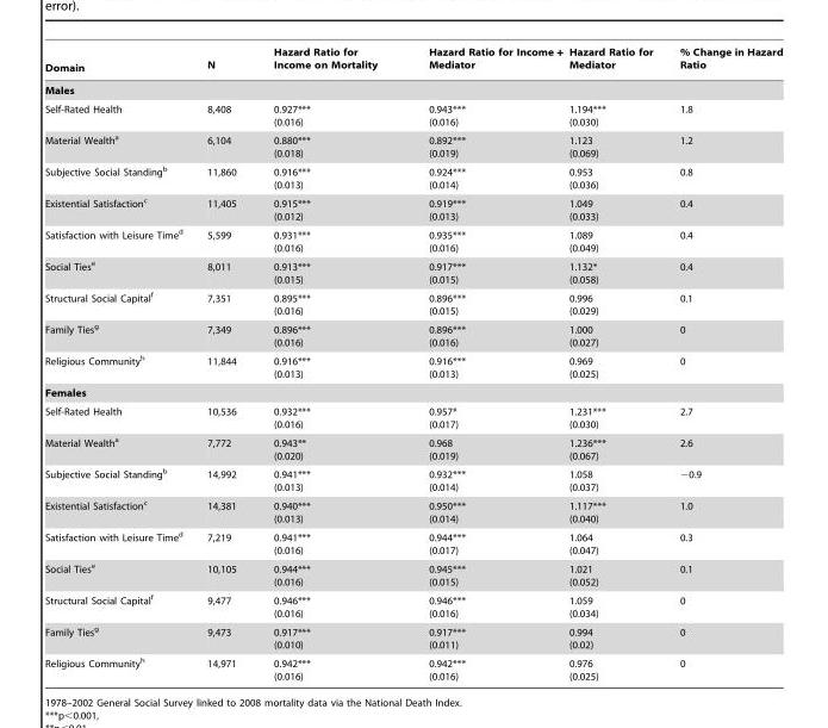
<table><thead><tr><td>Domain</td><td>N</td><td>Hazard Ratio for Income on Mortality</td><td>Hazard Ratio for Income + Mediator</td><td>Hazard Ratio for Mediator</td><td>% Change in Hazard Ratio</td></tr></thead><tbody><tr><td colspan="6">Males</td></tr><tr><td>Self-Rated Health</td><td>8,408</td><td>0.927*** (0.016)</td><td>0.943*** (0.016)</td><td>1.194*** (0.030)</td><td>1.8</td></tr><tr><td>Material Wealth<sup>a</sup></td><td>6,104</td><td>0.880*** (0.018)</td><td>0.892*** (0.019)</td><td>1.123 (0.069)</td><td>1.2</td></tr><tr><td>Subjective Social Standing<sup>b</sup></td><td>11,860</td><td>0.916*** (0.013)</td><td>0.924*** (0.014)</td><td>0.953 (0.036)</td><td>0.8</td></tr><tr><td>Existential Satisfaction<sup>c</sup></td><td>11,405</td><td>0.915*** (0.012)</td><td>0.919*** (0.013)</td><td>1.049 (0.033)</td><td>0.4</td></tr><tr><td>Satisfaction with Leisure Time<sup>d</sup></td><td>5,599</td><td>0.931*** (0.016)</td><td>0.935*** (0.016)</td><td>1.089 (0.049)</td><td>0.4</td></tr><tr><td>Social Ties<sup>e</sup></td><td>8,011</td><td>0.913*** (0.015)</td><td>0.917*** (0.015)</td><td>1.132* (0.058)</td><td>0.4</td></tr><tr><td>Structural Social Capital<sup>f</sup></td><td>7,351</td><td>0.895*** (0.016)</td><td>0.896*** (0.015)</td><td>0.996 (0.029)</td><td>0.1</td></tr><tr><td>Family Ties<sup>g</sup></td><td>7,349</td><td>0.896*** (0.016)</td><td>0.896*** (0.016)</td><td>1.000 (0.027)</td><td>0</td></tr><tr><td>Religious Community<sup>h</sup></td><td>11,844</td><td>0.916*** (0.013)</td><td>0.916*** (0.013)</td><td>0.969 (0.025)</td><td>0</td></tr><tr><td colspan="6">Females</td></tr><tr><td>Self-Rated Health</td><td>10,536</td><td>0.932*** (0.016)</td><td>0.957* (0.017)</td><td>1.231*** (0.030)</td><td>2.7</td></tr><tr><td>Material Wealth<sup>a</sup></td><td>7,772</td><td>0.943** (0.020)</td><td>0.968 (0.019)</td><td>1.236*** (0.067)</td><td>2.6</td></tr><tr><td>Subjective Social Standing<sup>b</sup></td><td>14,992</td><td>0.941*** (0.013)</td><td>0.932*** (0.014)</td><td>1.058 (0.037)</td><td>−0.9</td></tr><tr><td>Existential Satisfaction<sup>c</sup></td><td>14,381</td><td>0.940*** (0.013)</td><td>0.950*** (0.014)</td><td>1.117*** (0.040)</td><td>1.0</td></tr><tr><td>Satisfaction with Leisure Time<sup>d</sup></td><td>7,219</td><td>0.941*** (0.016)</td><td>0.944*** (0.017)</td><td>1.064 (0.047)</td><td>0.3</td></tr><tr><td>Social Ties<sup>e</sup></td><td>10,105</td><td>0.944*** (0.016)</td><td>0.945*** (0.015)</td><td>1.021 (0.052)</td><td>0.1</td></tr><tr><td>Structural Social Capital<sup>f</sup></td><td>9,477</td><td>0.946*** (0.016)</td><td>0.946*** (0.016)</td><td>1.059 (0.034)</td><td>0</td></tr><tr><td>Family Ties<sup>g</sup></td><td>9,473</td><td>0.917*** (0.010)</td><td>0.917*** (0.011)</td><td>0.994 (0.02)</td><td>0</td></tr><tr><td>Religious Community<sup>h</sup></td><td>14,971</td><td>0.942*** (0.016)</td><td>0.942*** (0.016)</td><td>0.976 (0.025)</td><td>0</td></tr></tbody></table>